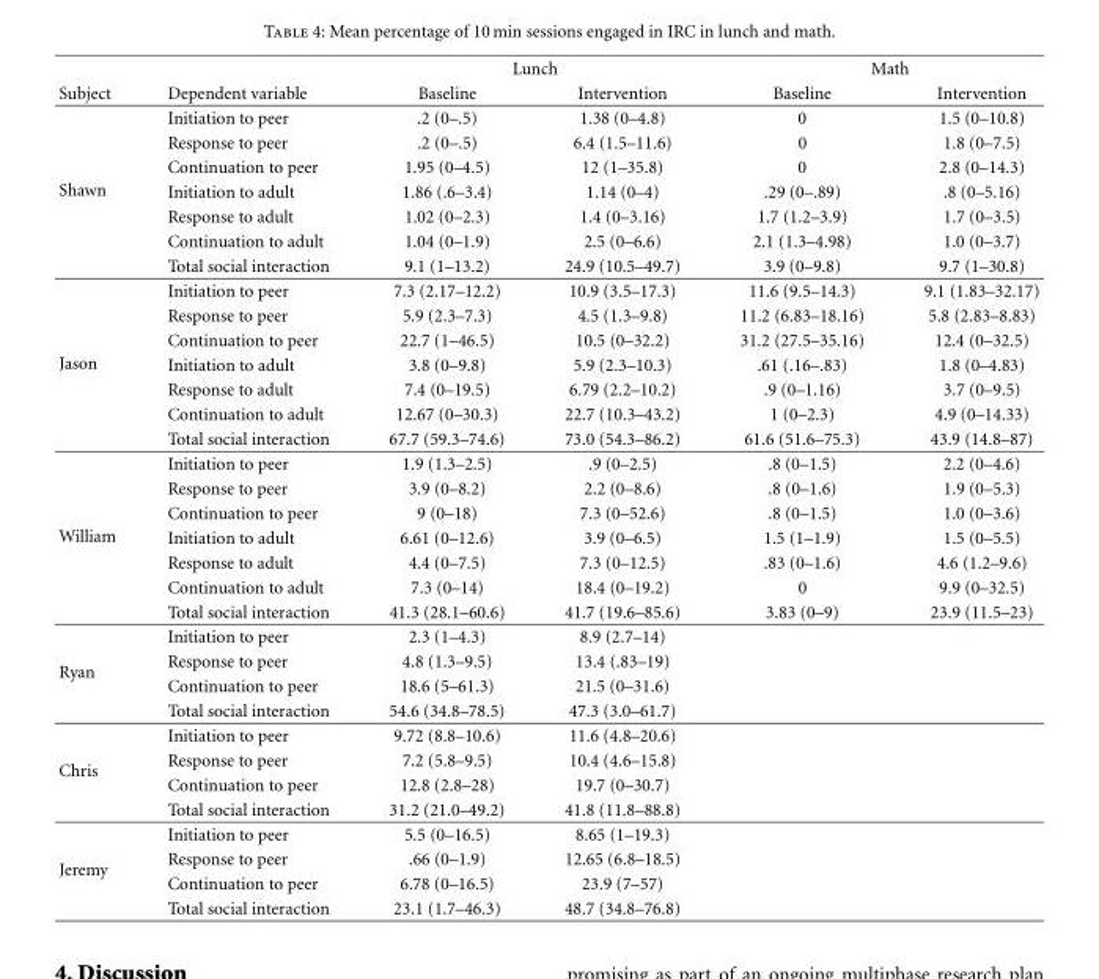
<table><thead><tr><td rowspan="2">Subject</td><td rowspan="2">Dependent variable</td><td colspan="2">Lunch</td><td colspan="2">Math</td></tr><tr><td>Baseline</td><td>Intervention</td><td>Baseline</td><td>Intervention</td></tr></thead><tbody><tr><td rowspan="7">Shawn</td><td>Initiation to peer</td><td>.2 (0–.5)</td><td>1.38 (0–4.8)</td><td>0</td><td>1.5 (0–10.8)</td></tr><tr><td>Response to peer</td><td>.2 (0–.5)</td><td>6.4 (1.5–11.6)</td><td>0</td><td>1.8 (0–7.5)</td></tr><tr><td>Continuation to peer</td><td>1.95 (0–4.5)</td><td>12 (1–35.8)</td><td>0</td><td>2.8 (0–14.3)</td></tr><tr><td>Initiation to adult</td><td>1.86 (.6–3.4)</td><td>1.14 (0–4)</td><td>.29 (0–.89)</td><td>.8 (0–5.16)</td></tr><tr><td>Response to adult</td><td>1.02 (0–2.3)</td><td>1.4 (0–3.16)</td><td>1.7 (1.2–3.9)</td><td>1.7 (0–3.5)</td></tr><tr><td>Continuation to adult</td><td>1.04 (0–1.9)</td><td>2.5 (0–6.6)</td><td>2.1 (1.3–4.98)</td><td>1.0 (0–3.7)</td></tr><tr><td>Total social interaction</td><td>9.1 (1–13.2)</td><td>24.9 (10.5–49.7)</td><td>3.9 (0–9.8)</td><td>9.7 (1–30.8)</td></tr><tr><td rowspan="7">Jason</td><td>Initiation to peer</td><td>7.3 (2.17–12.2)</td><td>10.9 (3.5–17.3)</td><td>11.6 (9.5–14.3)</td><td>9.1 (1.83–32.17)</td></tr><tr><td>Response to peer</td><td>5.9 (2.3–7.3)</td><td>4.5 (1.3–9.8)</td><td>11.2 (6.83–18.16)</td><td>5.8 (2.83–8.83)</td></tr><tr><td>Continuation to peer</td><td>22.7 (1–46.5)</td><td>10.5 (0–32.2)</td><td>31.2 (27.5–35.16)</td><td>12.4 (0–32.5)</td></tr><tr><td>Initiation to adult</td><td>3.8 (0–9.8)</td><td>5.9 (2.3–10.3)</td><td>.61 (.16–.83)</td><td>1.8 (0–4.83)</td></tr><tr><td>Response to adult</td><td>7.4 (0–19.5)</td><td>6.79 (2.2–10.2)</td><td>.9 (0–1.16)</td><td>3.7 (0–9.5)</td></tr><tr><td>Continuation to adult</td><td>12.67 (0–30.3)</td><td>22.7 (10.3–43.2)</td><td>1 (0–2.3)</td><td>4.9 (0–14.33)</td></tr><tr><td>Total social interaction</td><td>67.7 (59.3–74.6)</td><td>73.0 (54.3–86.2)</td><td>61.6 (51.6–75.3)</td><td>43.9 (14.8–87)</td></tr><tr><td rowspan="7">William</td><td>Initiation to peer</td><td>1.9 (1.3–2.5)</td><td>.9 (0–2.5)</td><td>.8 (0–1.5)</td><td>2.2 (0–4.6)</td></tr><tr><td>Response to peer</td><td>3.9 (0–8.2)</td><td>2.2 (0–8.6)</td><td>.8 (0–1.6)</td><td>1.9 (0–5.3)</td></tr><tr><td>Continuation to peer</td><td>9 (0–18)</td><td>7.3 (0–52.6)</td><td>.8 (0–1.5)</td><td>1.0 (0–3.6)</td></tr><tr><td>Initiation to adult</td><td>6.61 (0–12.6)</td><td>3.9 (0–6.5)</td><td>1.5 (1–1.9)</td><td>1.5 (0–5.5)</td></tr><tr><td>Response to adult</td><td>4.4 (0–7.5)</td><td>7.3 (0–12.5)</td><td>.83 (0–1.6)</td><td>4.6 (1.2–9.6)</td></tr><tr><td>Continuation to adult</td><td>7.3 (0–14)</td><td>18.4 (0–19.2)</td><td>0</td><td>9.9 (0–32.5)</td></tr><tr><td>Total social interaction</td><td>41.3 (28.1–60.6)</td><td>41.7 (19.6–85.6)</td><td>3.83 (0–9)</td><td>23.9 (11.5–23)</td></tr><tr><td rowspan="4">Ryan</td><td>Initiation to peer</td><td>2.3 (1–4.3)</td><td>8.9 (2.7–14)</td><td></td><td></td></tr><tr><td>Response to peer</td><td>4.8 (1.3–9.5)</td><td>13.4 (.83–19)</td><td></td><td></td></tr><tr><td>Continuation to peer</td><td>18.6 (5–61.3)</td><td>21.5 (0–31.6)</td><td></td><td></td></tr><tr><td>Total social interaction</td><td>54.6 (34.8–78.5)</td><td>47.3 (3.0–61.7)</td><td></td><td></td></tr><tr><td rowspan="4">Chris</td><td>Initiation to peer</td><td>9.72 (8.8–10.6)</td><td>11.6 (4.8–20.6)</td><td></td><td></td></tr><tr><td>Response to peer</td><td>7.2 (5.8–9.5)</td><td>10.4 (4.6–15.8)</td><td></td><td></td></tr><tr><td>Continuation to peer</td><td>12.8 (2.8–28)</td><td>19.7 (0–30.7)</td><td></td><td></td></tr><tr><td>Total social interaction</td><td>31.2 (21.0–49.2)</td><td>41.8 (11.8–88.8)</td><td></td><td></td></tr><tr><td rowspan="4">Jeremy</td><td>Initiation to peer</td><td>5.5 (0–16.5)</td><td>8.65 (1–19.3)</td><td></td><td></td></tr><tr><td>Response to peer</td><td>.66 (0–1.9)</td><td>12.65 (6.8–18.5)</td><td></td><td></td></tr><tr><td>Continuation to peer</td><td>6.78 (0–16.5)</td><td>23.9 (7–57)</td><td></td><td></td></tr><tr><td>Total social interaction</td><td>23.1 (1.7–46.3)</td><td>48.7 (34.8–76.8)</td><td></td><td></td></tr></tbody></table>